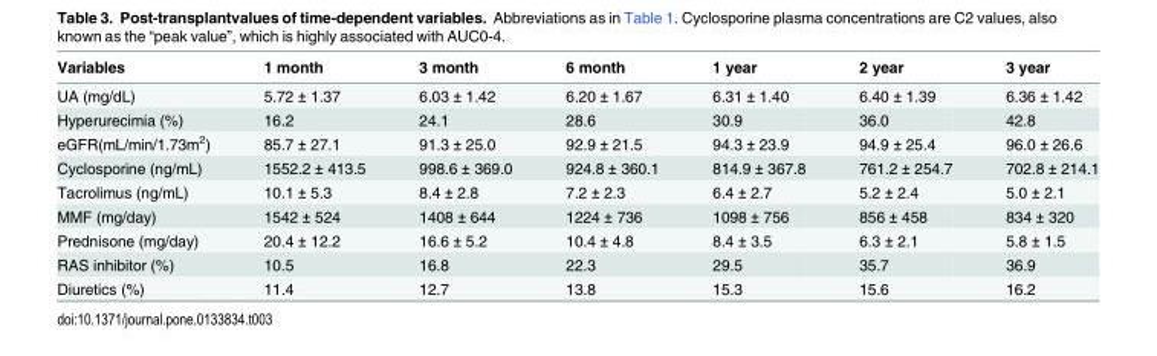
<table><thead><tr><td>Variables</td><td>1 month</td><td>3 month</td><td>6 month</td><td>1 year</td><td>2 year</td><td>3 year</td></tr></thead><tbody><tr><td>UA (mg/dL)</td><td>5.72 ± 1.37</td><td>6.03 ± 1.42</td><td>6.20 ± 1.67</td><td>6.31 ± 1.40</td><td>6.40 ± 1.39</td><td>6.36 ± 1.42</td></tr><tr><td>Hyperurecimia (%)</td><td>16.2</td><td>24.1</td><td>28.6</td><td>30.9</td><td>36.0</td><td>42.8</td></tr><tr><td>eGFR(mL/min/1.73m<sup>2</sup>)</td><td>85.7 ± 27.1</td><td>91.3 ± 25.0</td><td>92.9 ± 21.5</td><td>94.3 ± 23.9</td><td>94.9 ± 25.4</td><td>96.0 ± 26.6</td></tr><tr><td>Cyclosporine (ng/mL)</td><td>1552.2 ± 413.5</td><td>998.6 ± 369.0</td><td>924.8 ± 360.1</td><td>814.9 ± 367.8</td><td>761.2 ± 254.7</td><td>702.8 ± 214.1</td></tr><tr><td>Tacrolimus (ng/mL)</td><td>10.1 ± 5.3</td><td>8.4 ± 2.8</td><td>7.2 ± 2.3</td><td>6.4 ± 2.7</td><td>5.2 ± 2.4</td><td>5.0 ± 2.1</td></tr><tr><td>MMF (mg/day)</td><td>1542 ± 524</td><td>1408 ± 644</td><td>1224 ± 736</td><td>1098 ± 756</td><td>856 ± 458</td><td>834 ± 320</td></tr><tr><td>Prednisone (mg/day)</td><td>20.4 ± 12.2</td><td>16.6 ± 5.2</td><td>10.4 ± 4.8</td><td>8.4 ± 3.5</td><td>6.3 ± 2.1</td><td>5.8 ± 1.5</td></tr><tr><td>RAS inhibitor (%)</td><td>10.5</td><td>16.8</td><td>22.3</td><td>29.5</td><td>35.7</td><td>36.9</td></tr><tr><td>Diuretics (%)</td><td>11.4</td><td>12.7</td><td>13.8</td><td>15.3</td><td>15.6</td><td>16.2</td></tr></tbody></table>